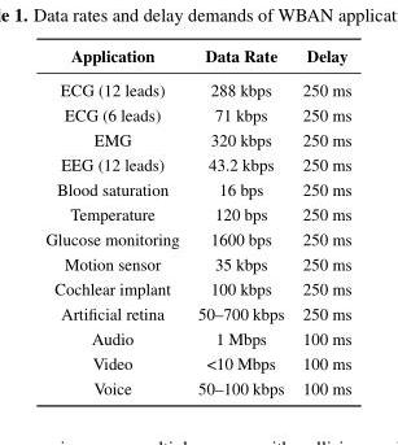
<table><thead><tr><td>Application</td><td>Data Rate</td><td>Delay</td></tr></thead><tbody><tr><td>ECG (12 leads)</td><td>288 kbps</td><td>250 ms</td></tr><tr><td>ECG (6 leads)</td><td>71 kbps</td><td>250 ms</td></tr><tr><td>EMG</td><td>320 kbps</td><td>250 ms</td></tr><tr><td>EEG (12 leads)</td><td>43.2 kbps</td><td>250 ms</td></tr><tr><td>Blood saturation</td><td>16 bps</td><td>250 ms</td></tr><tr><td>Temperature</td><td>120 bps</td><td>250 ms</td></tr><tr><td>Glucose monitoring</td><td>1600 bps</td><td>250 ms</td></tr><tr><td>Motion sensor</td><td>35 kbps</td><td>250 ms</td></tr><tr><td>Cochlear implant</td><td>100 kbps</td><td>250 ms</td></tr><tr><td>Artificial retina</td><td>50–700 kbps</td><td>250 ms</td></tr><tr><td>Audio</td><td>1 Mbps</td><td>100 ms</td></tr><tr><td>Video</td><td>&lt;10 Mbps</td><td>100 ms</td></tr><tr><td>Voice</td><td>50–100 kbps</td><td>100 ms</td></tr></tbody></table>